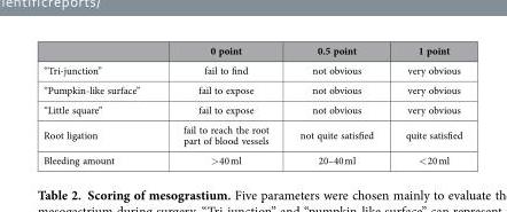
<table><thead><tr><td></td><td>0 point</td><td>0.5 point</td><td>1 point</td></tr></thead><tbody><tr><td>“Tri-junction”</td><td>fail to find</td><td>not obvious</td><td>very obvious</td></tr><tr><td>“Pumpkin-like surface”</td><td>fail to expose</td><td>not obvious</td><td>very obvious</td></tr><tr><td>“Little square”</td><td>fail to expose</td><td>not obvious</td><td>very obvious</td></tr><tr><td>Root ligation</td><td>fail to reach the root part of blood vessels</td><td>not quite satisfied</td><td>quite satisfied</td></tr><tr><td>Bleeding amount</td><td>&gt; 40 ml</td><td>20–40 ml</td><td>&lt; 20 ml</td></tr></tbody></table>